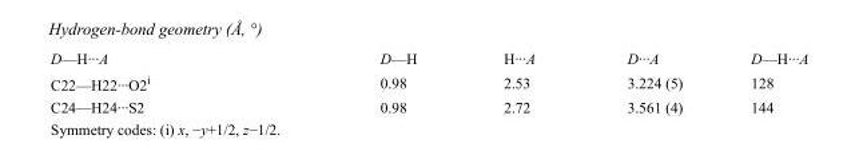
<table><tbody><tr><td>D—H···A</td><td>D—H</td><td>H···A</td><td>D···A</td><td>D—H···A</td></tr><tr><td>C22—H22···O2<sup>i</sup></td><td>0.98</td><td>2.53</td><td>3.224 (5)</td><td>128</td></tr><tr><td>C24—H24···S2</td><td>0.98</td><td>2.72</td><td>3.561 (4)</td><td>144</td></tr></tbody></table>